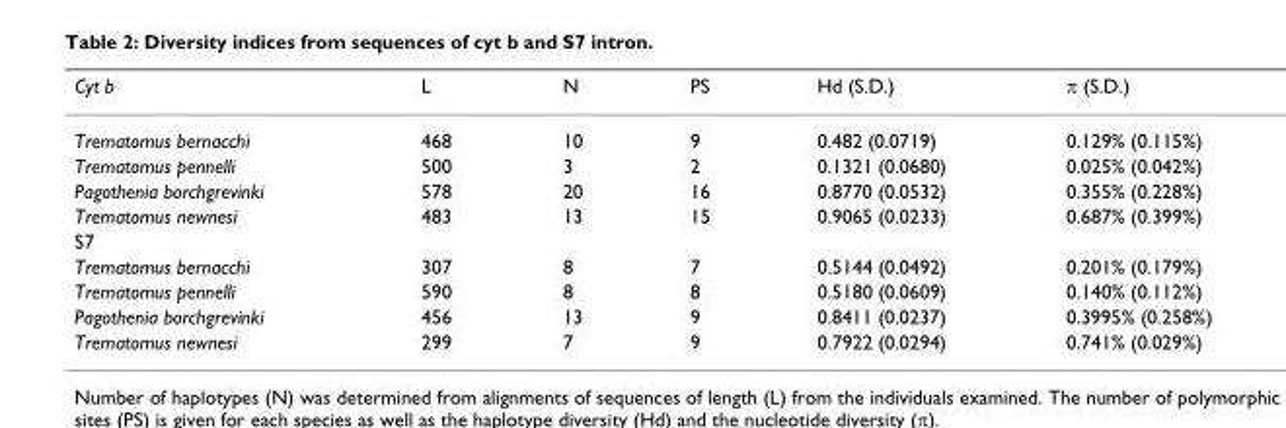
<table><thead><tr><td>Cyt b</td><td>L</td><td>N</td><td>PS</td><td>Hd (S.D.)</td><td>π (S.D.)</td></tr></thead><tbody><tr><td>Trematomus bernacchi</td><td>468</td><td>10</td><td>9</td><td>0.482 (0.0719)</td><td>0.129% (0.115%)</td></tr><tr><td>Trematomus pennelli</td><td>500</td><td>3</td><td>2</td><td>0.1321 (0.0680)</td><td>0.025% (0.042%)</td></tr><tr><td>Pagothenia borchgrevinki</td><td>578</td><td>20</td><td>16</td><td>0.8770 (0.0532)</td><td>0.355% (0.228%)</td></tr><tr><td>Trematomus newnesi</td><td>483</td><td>13</td><td>15</td><td>0.9065 (0.0233)</td><td>0.687% (0.399%)</td></tr><tr><td colspan="6">S7</td></tr><tr><td>Trematomus bernacchi</td><td>307</td><td>8</td><td>7</td><td>0.5144 (0.0492)</td><td>0.201% (0.179%)</td></tr><tr><td>Trematomus pennelli</td><td>590</td><td>8</td><td>8</td><td>0.5180 (0.0609)</td><td>0.140% (0.112%)</td></tr><tr><td>Pagothenia borchgrevinki</td><td>456</td><td>13</td><td>9</td><td>0.8411 (0.0237)</td><td>0.3995% (0.258%)</td></tr><tr><td>Trematomus newnesi</td><td>299</td><td>7</td><td>9</td><td>0.7922 (0.0294)</td><td>0.741% (0.029%)</td></tr></tbody></table>